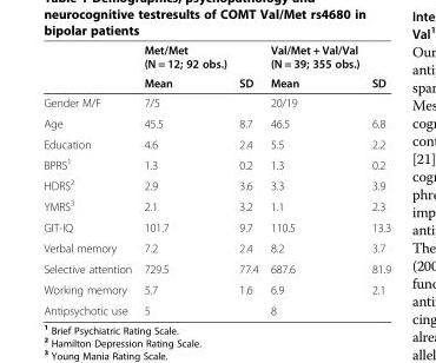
<table><thead><tr><td rowspan="2"></td><td rowspan="2">Met/Met (N = 12; 92 obs.) Mean</td><td rowspan="2">SD</td><td rowspan="2">Val/Met + Val/Val (N = 39; 355 obs.) Mean</td><td rowspan="2">SD</td></tr><tr></tr></thead><tbody><tr><td>Gender M/F</td><td>7/5</td><td></td><td>20/19</td><td></td></tr><tr><td>Age</td><td>45.5</td><td>8.7</td><td>46.5</td><td>6.8</td></tr><tr><td>Education</td><td>4.6</td><td>2.4</td><td>5.5</td><td>2.2</td></tr><tr><td>BPRS<sup>1</sup></td><td>1.3</td><td>0.2</td><td>1.3</td><td>0.2</td></tr><tr><td>HDRS<sup>2</sup></td><td>2.9</td><td>3.6</td><td>3.3</td><td>3.9</td></tr><tr><td>YMRS<sup>3</sup></td><td>2.1</td><td>3.2</td><td>1.1</td><td>2.3</td></tr><tr><td>GIT-IQ</td><td>101.7</td><td>9.7</td><td>110.5</td><td>13.3</td></tr><tr><td>Verbal memory</td><td>7.2</td><td>2.4</td><td>8.2</td><td>3.7</td></tr><tr><td>Selective attention</td><td>729.5</td><td>77.4</td><td>687.6</td><td>81.9</td></tr><tr><td>Working memory</td><td>5.7</td><td>1.6</td><td>6.9</td><td>2.1</td></tr><tr><td>Antipsychotic use</td><td>5</td><td></td><td>8</td><td></td></tr></tbody></table>